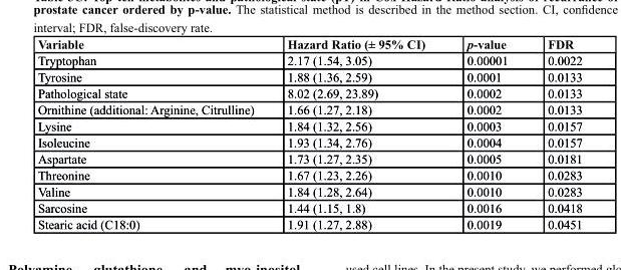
<table><thead><tr><td>Variable</td><td>Hazard Ratio (± 95% CI)</td><td>p-value</td><td>Fdr</td></tr></thead><tbody><tr><td>Tryptophan</td><td>2.17 (1.54, 3.05)</td><td>0.00001</td><td>0.0022</td></tr><tr><td>Tyrosine</td><td>1.88 (1.36, 2.59)</td><td>0.0001</td><td>0.0133</td></tr><tr><td>Pathological state</td><td>8.02 (2.69, 23.89)</td><td>0.0002</td><td>0.0133</td></tr><tr><td>Ornithine (additional: Arginine, Citrulline)</td><td>1.66 (1.27, 2.18)</td><td>0.0002</td><td>0.0133</td></tr><tr><td>Lysine</td><td>1.84 (1.32, 2.56)</td><td>0.0003</td><td>0.0157</td></tr><tr><td>Isoleucine</td><td>1.93 (1.34, 2.76)</td><td>0.0004</td><td>0.0157</td></tr><tr><td>Aspartate</td><td>1.73 (1.27, 2.35)</td><td>0.0005</td><td>0.0181</td></tr><tr><td>Threonine</td><td>1.67 (1.23, 2.26)</td><td>0.0010</td><td>0.0283</td></tr><tr><td>Valine</td><td>1.84 (1.28, 2.64)</td><td>0.0010</td><td>0.0283</td></tr><tr><td>Sarcosine</td><td>1.44 (1.15, 1.8)</td><td>0.0016</td><td>0.0418</td></tr><tr><td>Stearic acid (C18:0)</td><td>1.91 (1.27, 2.88)</td><td>0.0019</td><td>0.0451</td></tr></tbody></table>